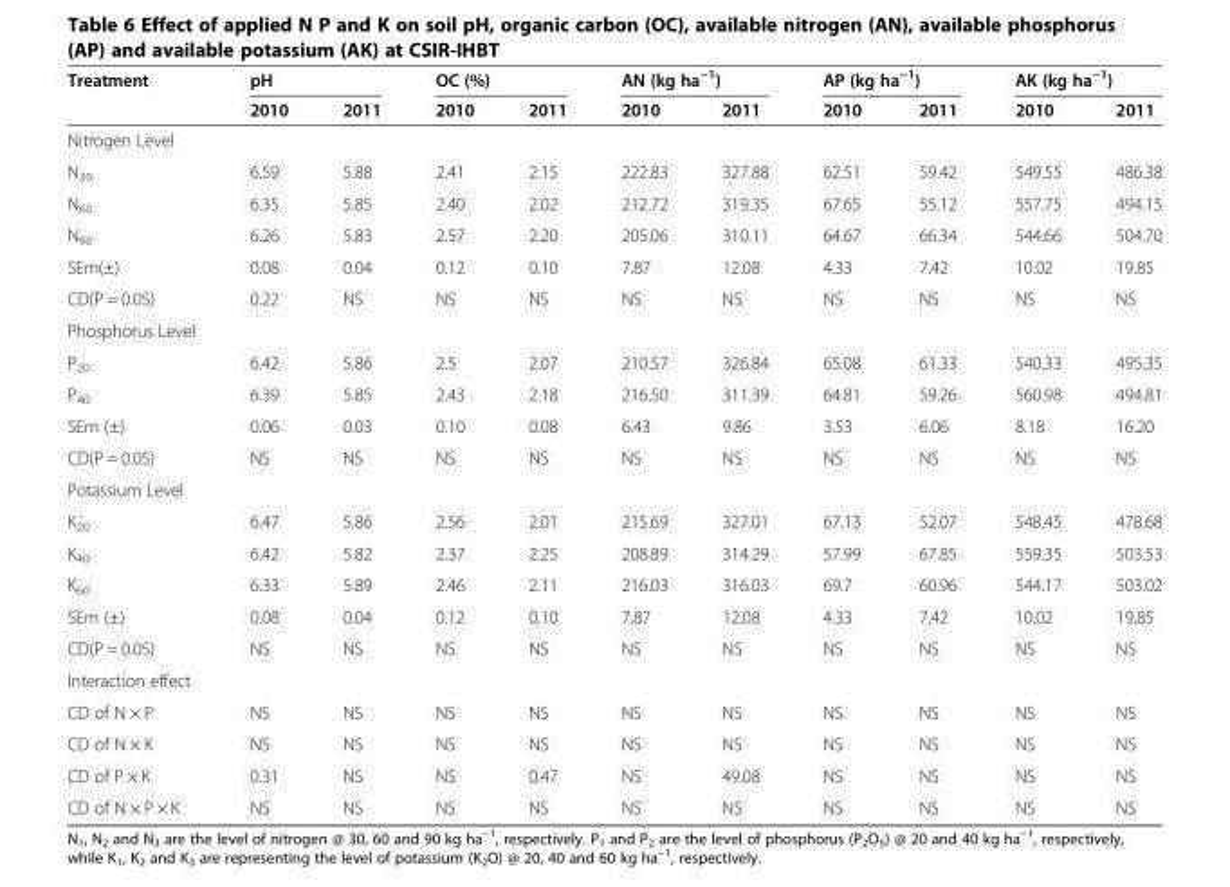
<table><thead><tr><td rowspan="2">Treatment</td><td colspan="2">pH</td><td colspan="2">OC (%)</td><td colspan="2">AN (kg ha<sup>−1</sup>)</td><td colspan="2">AP (kg ha<sup>−1</sup>)</td><td colspan="2">AK (kg ha<sup>−1</sup>)</td></tr><tr><td>2010</td><td>2011</td><td>2010</td><td>2011</td><td>2010</td><td>2011</td><td>2010</td><td>2011</td><td>2010</td><td>2011</td></tr></thead><tbody><tr><td colspan="11">Nitrogen Level</td></tr><tr><td>N<sub>30</sub></td><td>6.59</td><td>5.88</td><td>2.41</td><td>2.15</td><td>222.83</td><td>327.88</td><td>62.51</td><td>59.42</td><td>549.55</td><td>486.38</td></tr><tr><td>N<sub>60</sub></td><td>6.35</td><td>5.85</td><td>2.40</td><td>2.02</td><td>212.72</td><td>319.35</td><td>67.65</td><td>55.12</td><td>557.75</td><td>494.15</td></tr><tr><td>N<sub>90</sub></td><td>6.26</td><td>5.83</td><td>2.57</td><td>2.20</td><td>205.06</td><td>310.11</td><td>64.67</td><td>66.34</td><td>544.66</td><td>504.70</td></tr><tr><td>SEm(±)</td><td>0.08</td><td>0.04</td><td>0.12</td><td>0.10</td><td>7.87</td><td>12.08</td><td>4.33</td><td>7.42</td><td>10.02</td><td>19.85</td></tr><tr><td>CD(P = 0.05)</td><td>0.22</td><td>NS</td><td>NS</td><td>NS</td><td>NS</td><td>NS</td><td>NS</td><td>NS</td><td>NS</td><td>NS</td></tr><tr><td colspan="11">Phosphorus Level</td></tr><tr><td>P<sub>20</sub></td><td>6.42</td><td>5.86</td><td>2.5</td><td>2.07</td><td>210.57</td><td>326.84</td><td>65.08</td><td>61.33</td><td>540.33</td><td>495.35</td></tr><tr><td>P<sub>40</sub></td><td>6.39</td><td>5.85</td><td>2.43</td><td>2.18</td><td>216.50</td><td>311.39</td><td>64.81</td><td>59.26</td><td>560.98</td><td>494.81</td></tr><tr><td>SEm (±)</td><td>0.06</td><td>0.03</td><td>0.10</td><td>0.08</td><td>6.43</td><td>9.86</td><td>3.53</td><td>6.06</td><td>8.18</td><td>16.20</td></tr><tr><td>CD(P = 0.05)</td><td>NS</td><td>NS</td><td>NS</td><td>NS</td><td>NS</td><td>NS</td><td>NS</td><td>NS</td><td>NS</td><td>NS</td></tr><tr><td colspan="11">Potassium Level</td></tr><tr><td>K<sub>20</sub></td><td>6.47</td><td>5.86</td><td>2.56</td><td>2.01</td><td>215.69</td><td>327.01</td><td>67.13</td><td>52.07</td><td>548.45</td><td>478.68</td></tr><tr><td>K<sub>40</sub></td><td>6.42</td><td>5.82</td><td>2.37</td><td>2.25</td><td>208.89</td><td>314.29</td><td>57.99</td><td>67.85</td><td>559.35</td><td>503.53</td></tr><tr><td>K<sub>60</sub></td><td>6.33</td><td>5.89</td><td>2.46</td><td>2.11</td><td>216.03</td><td>316.03</td><td>69.7</td><td>60.96</td><td>544.17</td><td>503.02</td></tr><tr><td>SEm (±)</td><td>0.08</td><td>0.04</td><td>0.12</td><td>0.10</td><td>7.87</td><td>12.08</td><td>4.33</td><td>7.42</td><td>10.02</td><td>19.85</td></tr><tr><td>CD(P = 0.05)</td><td>NS</td><td>NS</td><td>NS</td><td>NS</td><td>NS</td><td>NS</td><td>NS</td><td>NS</td><td>NS</td><td>NS</td></tr><tr><td colspan="11">Interaction effect</td></tr><tr><td>CD of N × P</td><td>NS</td><td>NS</td><td>NS</td><td>NS</td><td>NS</td><td>NS</td><td>NS</td><td>NS</td><td>NS</td><td>NS</td></tr><tr><td>CD of N × K</td><td>NS</td><td>NS</td><td>NS</td><td>NS</td><td>NS</td><td>NS</td><td>NS</td><td>NS</td><td>NS</td><td>NS</td></tr><tr><td>CD of P × K</td><td>0.31</td><td>NS</td><td>NS</td><td>0.47</td><td>NS</td><td>49.08</td><td>NS</td><td>NS</td><td>NS</td><td>NS</td></tr><tr><td>CD of N × P × K</td><td>NS</td><td>NS</td><td>NS</td><td>NS</td><td>NS</td><td>NS</td><td>NS</td><td>NS</td><td>NS</td><td>NS</td></tr></tbody></table>